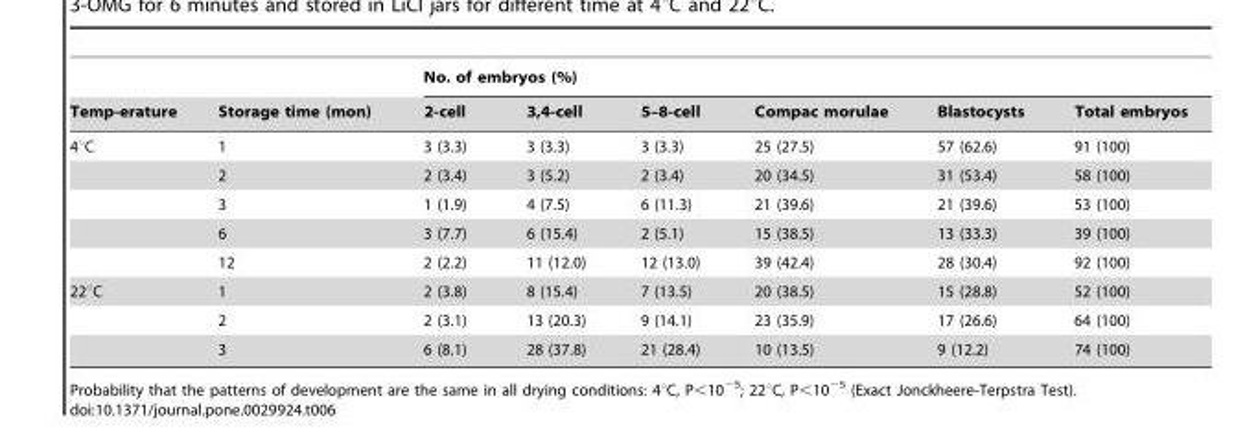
<table><thead><tr><td rowspan="2">Temp-erature</td><td rowspan="2">Storage time (mon)</td><td colspan="6">No. of embryos (%)</td></tr><tr><td>2-cell</td><td>3,4-cell</td><td>5–8-cell</td><td>Compac morulae</td><td>Blastocysts</td><td>Total embryos</td></tr></thead><tbody><tr><td rowspan="5">4°C</td><td>1</td><td>3 (3.3)</td><td>3 (3.3)</td><td>3 (3.3)</td><td>25 (27.5)</td><td>57 (62.6)</td><td>91 (100)</td></tr><tr><td>2</td><td>2 (3.4)</td><td>3 (5.2)</td><td>2 (3.4)</td><td>20 (34.5)</td><td>31 (53.4)</td><td>58 (100)</td></tr><tr><td>3</td><td>1 (1.9)</td><td>4 (7.5)</td><td>6 (11.3)</td><td>21 (39.6)</td><td>21 (39.6)</td><td>53 (100)</td></tr><tr><td>6</td><td>3 (7.7)</td><td>6 (15.4)</td><td>2 (5.1)</td><td>15 (38.5)</td><td>13 (33.3)</td><td>39 (100)</td></tr><tr><td>12</td><td>2 (2.2)</td><td>11 (12.0)</td><td>12 (13.0)</td><td>39 (42.4)</td><td>28 (30.4)</td><td>92 (100)</td></tr><tr><td rowspan="3">22°C</td><td>1</td><td>2 (3.8)</td><td>8 (15.4)</td><td>7 (13.5)</td><td>20 (38.5)</td><td>15 (28.8)</td><td>52 (100)</td></tr><tr><td>2</td><td>2 (3.1)</td><td>13 (20.3)</td><td>9 (14.1)</td><td>23 (35.9)</td><td>17 (26.6)</td><td>64 (100)</td></tr><tr><td>3</td><td>6 (8.1)</td><td>28 (37.8)</td><td>21 (28.4)</td><td>10 (13.5)</td><td>9 (12.2)</td><td>74 (100)</td></tr></tbody></table>